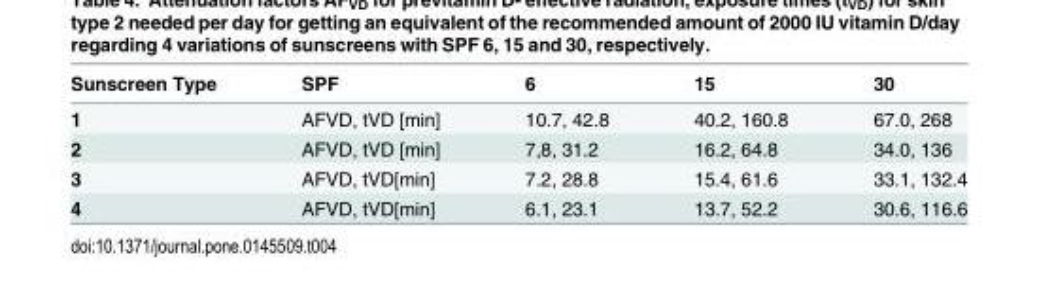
<table><thead><tr><td>Sunscreen Type</td><td>SPF</td><td>6</td><td>15</td><td>30</td></tr></thead><tbody><tr><td>1</td><td>AFVD, tVD [min]</td><td>10.7, 42.8</td><td>40.2, 160.8</td><td>67.0, 268</td></tr><tr><td>2</td><td>AFVD, tVD [min]</td><td>7,8, 31.2</td><td>16.2, 64.8</td><td>34.0, 136</td></tr><tr><td>3</td><td>AFVD, tVD[min]</td><td>7.2, 28.8</td><td>15.4, 61.6</td><td>33.1, 132.4</td></tr><tr><td>4</td><td>AFVD, tVD[min]</td><td>6.1, 23.1</td><td>13.7, 52.2</td><td>30.6, 116.6</td></tr></tbody></table>